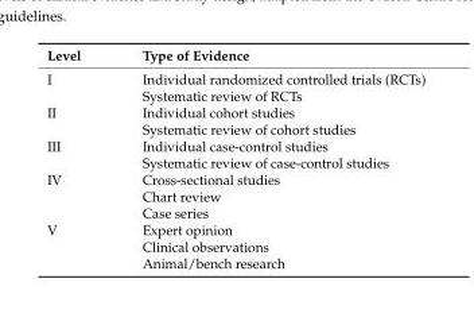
<table><thead><tr><td>Level</td><td>Type of Evidence</td></tr></thead><tbody><tr><td rowspan="2">I</td><td>Individual randomized controlled trials (RCTs)</td></tr><tr><td>Systematic review of RCTs</td></tr><tr><td rowspan="2">II</td><td>Individual cohort studies</td></tr><tr><td>Systematic review of cohort studies</td></tr><tr><td rowspan="2">III</td><td>Individual case-control studies</td></tr><tr><td>Systematic review of case-control studies</td></tr><tr><td rowspan="3">IV</td><td>Cross-sectional studies</td></tr><tr><td>Chart review</td></tr><tr><td>Case series</td></tr><tr><td rowspan="3">V</td><td>Expert opinion</td></tr><tr><td>Clinical observations</td></tr><tr><td>Animal/bench research</td></tr></tbody></table>